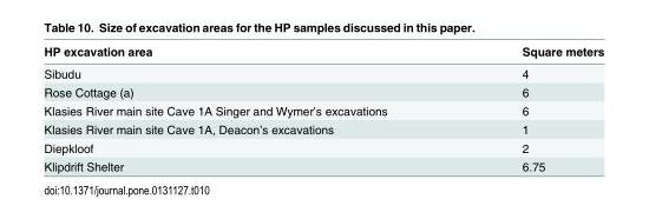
<table><thead><tr><td>HP excavation area</td><td>Square meters</td></tr></thead><tbody><tr><td>Sibudu</td><td>4</td></tr><tr><td>Rose Cottage (a)</td><td>6</td></tr><tr><td>Klasies River main site Cave 1A Singer and Wymer’s excavations</td><td>6</td></tr><tr><td>Klasies River main site Cave 1A, Deacon’s excavations</td><td>1</td></tr><tr><td>Diepkloof</td><td>2</td></tr><tr><td>Klipdrift Shelter</td><td>6.75</td></tr></tbody></table>